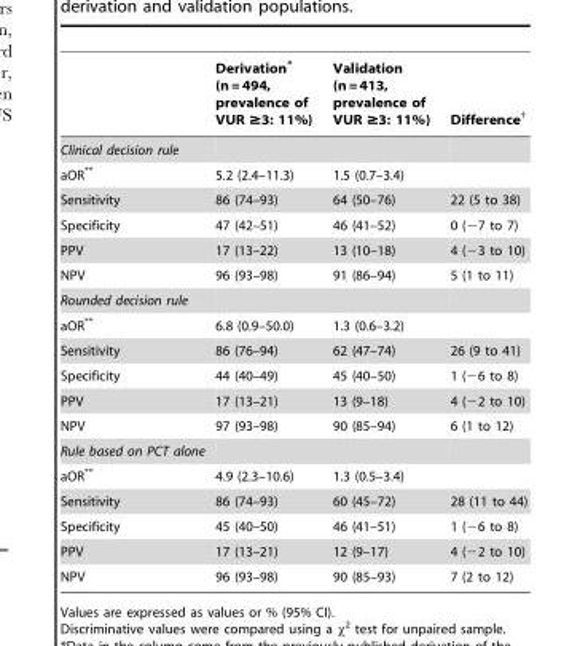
<table><thead><tr><td></td><td>Derivation* (n = 494, prevalence of VUR ≥3: 11%)</td><td>Validation (n = 413, prevalence of VUR ≥3: 11%)</td><td>Difference†</td></tr></thead><tbody><tr><td colspan="4">Clinical decision rule</td></tr><tr><td>aOR**</td><td>5.2 (2.4–11.3)</td><td>1.5 (0.7–3.4)</td><td></td></tr><tr><td>Sensitivity</td><td>86 (74–93)</td><td>64 (50–76)</td><td>22 (5 to 38)</td></tr><tr><td>Specificity</td><td>47 (42–51)</td><td>46 (41–52)</td><td>0 (−7 to 7)</td></tr><tr><td>PPV</td><td>17 (13–22)</td><td>13 (10–18)</td><td>4 (−3 to 10)</td></tr><tr><td>NPV</td><td>96 (93–98)</td><td>91 (86–94)</td><td>5 (1 to 11)</td></tr><tr><td colspan="4">Rounded decision rule</td></tr><tr><td>aOR**</td><td>6.8 (0.9–50.0)</td><td>1.3 (0.6–3.2)</td><td></td></tr><tr><td>Sensitivity</td><td>86 (76–94)</td><td>62 (47–74)</td><td>26 (9 to 41)</td></tr><tr><td>Specificity</td><td>44 (40–49)</td><td>45 (40–50)</td><td>1 (−6 to 8)</td></tr><tr><td>PPV</td><td>17 (13–21)</td><td>13 (9–18)</td><td>4 (−2 to 10)</td></tr><tr><td>NPV</td><td>97 (93–98)</td><td>90 (85–94)</td><td>6 (1 to 12)</td></tr><tr><td colspan="4">Rule based on PCT alone</td></tr><tr><td>aOR**</td><td>4.9 (2.3–10.6)</td><td>1.3 (0.5–3.4)</td><td></td></tr><tr><td>Sensitivity</td><td>86 (74–93)</td><td>60 (45–72)</td><td>28 (11 to 44)</td></tr><tr><td>Specificity</td><td>45 (40–50)</td><td>46 (41–51)</td><td>1 (−6 to 8)</td></tr><tr><td>PPV</td><td>17 (13–21)</td><td>12 (9–17)</td><td>4 (−2 to 10)</td></tr><tr><td>NPV</td><td>96 (93–98)</td><td>90 (85–93)</td><td>7 (2 to 12)</td></tr></tbody></table>